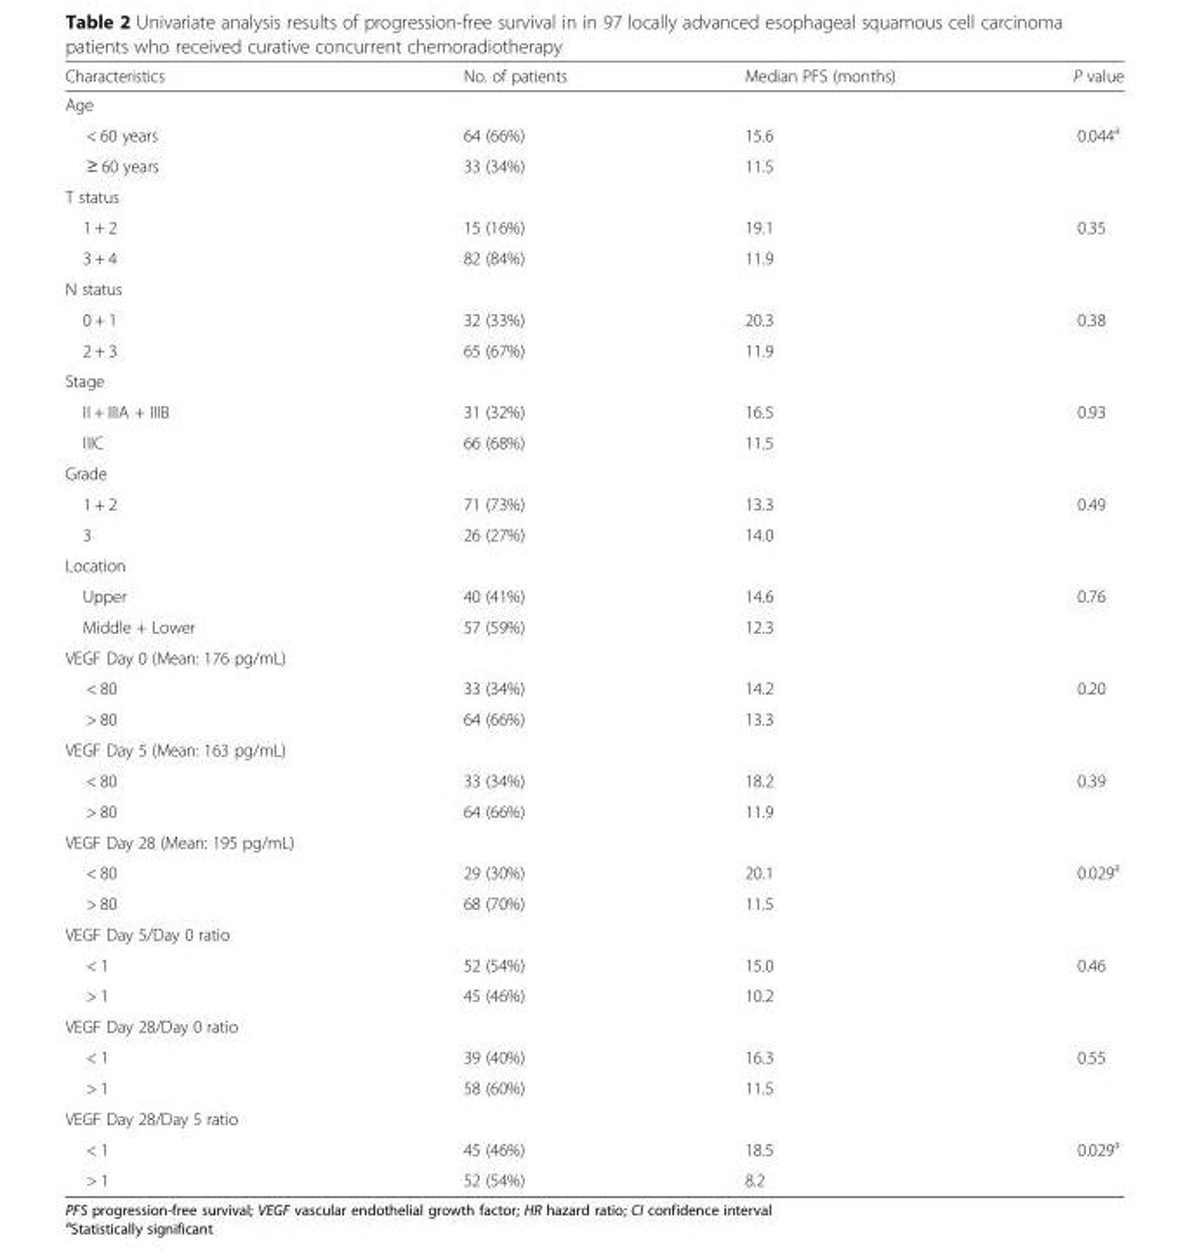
<table><thead><tr><td>Characteristics</td><td>No. of patients</td><td>Median PFS (months)</td><td>P value</td></tr></thead><tbody><tr><td colspan="4">Age</td></tr><tr><td>&lt; 60 years</td><td>64 (66%)</td><td>15.6</td><td>0.044<sup>a</sup></td></tr><tr><td>≥ 60 years</td><td>33 (34%)</td><td>11.5</td><td></td></tr><tr><td colspan="4">T status</td></tr><tr><td>1 + 2</td><td>15 (16%)</td><td>19.1</td><td>0.35</td></tr><tr><td>3 + 4</td><td>82 (84%)</td><td>11.9</td><td></td></tr><tr><td colspan="4">N status</td></tr><tr><td>0 + 1</td><td>32 (33%)</td><td>20.3</td><td>0.38</td></tr><tr><td>2 + 3</td><td>65 (67%)</td><td>11.9</td><td></td></tr><tr><td colspan="4">Stage</td></tr><tr><td>II + IIIA + IIIB</td><td>31 (32%)</td><td>16.5</td><td>0.93</td></tr><tr><td>IIIC</td><td>66 (68%)</td><td>11.5</td><td></td></tr><tr><td colspan="4">Grade</td></tr><tr><td>1 + 2</td><td>71 (73%)</td><td>13.3</td><td>0.49</td></tr><tr><td>3</td><td>26 (27%)</td><td>14.0</td><td></td></tr><tr><td colspan="4">Location</td></tr><tr><td>Upper</td><td>40 (41%)</td><td>14.6</td><td>0.76</td></tr><tr><td>Middle + Lower</td><td>57 (59%)</td><td>12.3</td><td></td></tr><tr><td colspan="4">VEGF Day 0 (Mean: 176 pg/mL)</td></tr><tr><td>&lt; 80</td><td>33 (34%)</td><td>14.2</td><td>0.20</td></tr><tr><td>&gt; 80</td><td>64 (66%)</td><td>13.3</td><td></td></tr><tr><td colspan="4">VEGF Day 5 (Mean: 163 pg/mL)</td></tr><tr><td>&lt; 80</td><td>33 (34%)</td><td>18.2</td><td>0.39</td></tr><tr><td>&gt; 80</td><td>64 (66%)</td><td>11.9</td><td></td></tr><tr><td colspan="4">VEGF Day 28 (Mean: 195 pg/mL)</td></tr><tr><td>&lt; 80</td><td>29 (30%)</td><td>20.1</td><td>0.029<sup>a</sup></td></tr><tr><td>&gt; 80</td><td>68 (70%)</td><td>11.5</td><td></td></tr><tr><td colspan="4">VEGF Day 5/Day 0 ratio</td></tr><tr><td>&lt; 1</td><td>52 (54%)</td><td>15.0</td><td>0.46</td></tr><tr><td>&gt; 1</td><td>45 (46%)</td><td>10.2</td><td></td></tr><tr><td colspan="4">VEGF Day 28/Day 0 ratio</td></tr><tr><td>&lt; 1</td><td>39 (40%)</td><td>16.3</td><td>0.55</td></tr><tr><td>&gt; 1</td><td>58 (60%)</td><td>11.5</td><td></td></tr><tr><td colspan="4">VEGF Day 28/Day 5 ratio</td></tr><tr><td>&lt; 1</td><td>45 (46%)</td><td>18.5</td><td>0.029<sup>a</sup></td></tr><tr><td>&gt; 1</td><td>52 (54%)</td><td>8.2</td><td></td></tr></tbody></table>